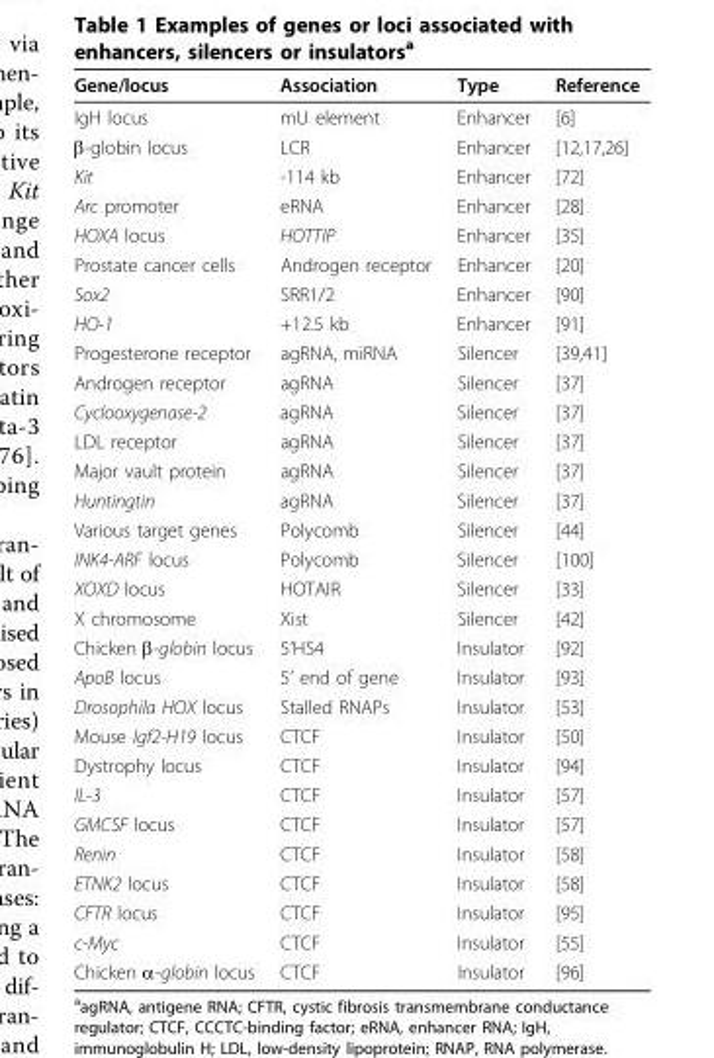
<table><thead><tr><td>Gene/locus</td><td>Association</td><td>Type</td><td>Reference</td></tr></thead><tbody><tr><td>IgH locus</td><td>mU element</td><td>Enhancer</td><td>[6]</td></tr><tr><td>β-globin locus</td><td>LCR</td><td>Enhancer</td><td>[12,17,26]</td></tr><tr><td>Kit</td><td>-114 kb</td><td>Enhancer</td><td>[72]</td></tr><tr><td>Arc promoter</td><td>eRNA</td><td>Enhancer</td><td>[28]</td></tr><tr><td>HOXA locus</td><td>HOTTIP</td><td>Enhancer</td><td>[35]</td></tr><tr><td>Prostate cancer cells</td><td>Androgen receptor</td><td>Enhancer</td><td>[20]</td></tr><tr><td>Sox2</td><td>SRR1/2</td><td>Enhancer</td><td>[90]</td></tr><tr><td>HO-1</td><td>+12.5 kb</td><td>Enhancer</td><td>[91]</td></tr><tr><td>Progesterone receptor</td><td>agRNA, miRNA</td><td>Silencer</td><td>[39,41]</td></tr><tr><td>Androgen receptor</td><td>agRNA</td><td>Silencer</td><td>[37]</td></tr><tr><td>Cyclooxygenase-2</td><td>agRNA</td><td>Silencer</td><td>[37]</td></tr><tr><td>LDL receptor</td><td>agRNA</td><td>Silencer</td><td>[37]</td></tr><tr><td>Major vault protein</td><td>agRNA</td><td>Silencer</td><td>[37]</td></tr><tr><td>Huntingtin</td><td>agRNA</td><td>Silencer</td><td>[37]</td></tr><tr><td>Various target genes</td><td>Polycomb</td><td>Silencer</td><td>[44]</td></tr><tr><td>INK4-ARF locus</td><td>Polycomb</td><td>Silencer</td><td>[100]</td></tr><tr><td>XOXD locus</td><td>HOTAIR</td><td>Silencer</td><td>[33]</td></tr><tr><td>X chromosome</td><td>Xist</td><td>Silencer</td><td>[42]</td></tr><tr><td>Chicken β-globin locus</td><td>5’HS4</td><td>Insulator</td><td>[92]</td></tr><tr><td>ApoB locus</td><td>5’ end of gene</td><td>Insulator</td><td>[93]</td></tr><tr><td>Drosophila HOX locus</td><td>Stalled RNAPs</td><td>Insulator</td><td>[53]</td></tr><tr><td>Mouse Igf2-H19 locus</td><td>CTCF</td><td>Insulator</td><td>[50]</td></tr><tr><td>Dystrophy locus</td><td>CTCF</td><td>Insulator</td><td>[94]</td></tr><tr><td>IL-3</td><td>CTCF</td><td>Insulator</td><td>[57]</td></tr><tr><td>GMCSF locus</td><td>CTCF</td><td>Insulator</td><td>[57]</td></tr><tr><td>Renin</td><td>CTCF</td><td>Insulator</td><td>[58]</td></tr><tr><td>ETNK2 locus</td><td>CTCF</td><td>Insulator</td><td>[58]</td></tr><tr><td>CFTR locus</td><td>CTCF</td><td>Insulator</td><td>[95]</td></tr><tr><td>c-Myc</td><td>CTCF</td><td>Insulator</td><td>[55]</td></tr><tr><td>Chicken α-globin locus</td><td>CTCF</td><td>Insulator</td><td>[96]</td></tr></tbody></table>